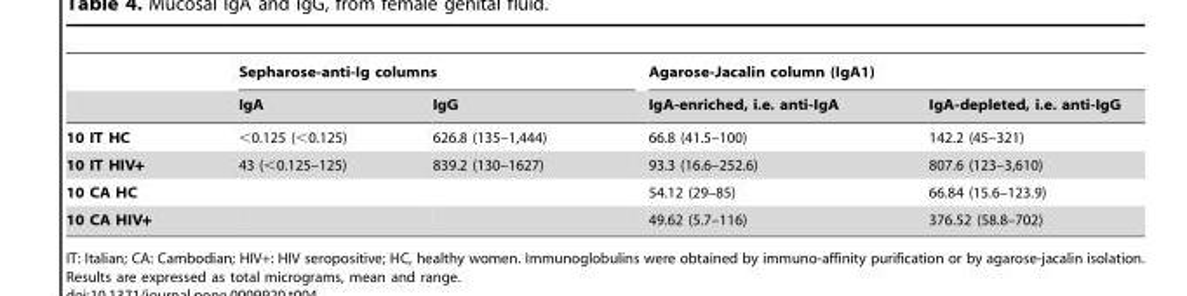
<table><thead><tr><td rowspan="2"></td><td colspan="2">Sepharose-anti-Ig columns</td><td colspan="2">Agarose-Jacalin column (IgA1)</td></tr><tr><td>IgA</td><td>IgG</td><td>IgA-enriched, i.e. anti-IgA</td><td>IgA-depleted, i.e. anti-IgG</td></tr></thead><tbody><tr><td>10 IT HC</td><td>&lt;0.125 (&lt;0.125)</td><td>626.8 (135–1,444)</td><td>66.8 (41.5–100)</td><td>142.2 (45–321)</td></tr><tr><td>10 IT HIV+</td><td>43 (&lt;0.125–125)</td><td>839.2 (130–1627)</td><td>93.3 (16.6–252.6)</td><td>807.6 (123–3,610)</td></tr><tr><td>10 CA HC</td><td></td><td></td><td>54.12 (29–85)</td><td>66.84 (15.6–123.9)</td></tr><tr><td>10 CA HIV+</td><td></td><td></td><td>49.62 (5.7–116)</td><td>376.52 (58.8–702)</td></tr></tbody></table>